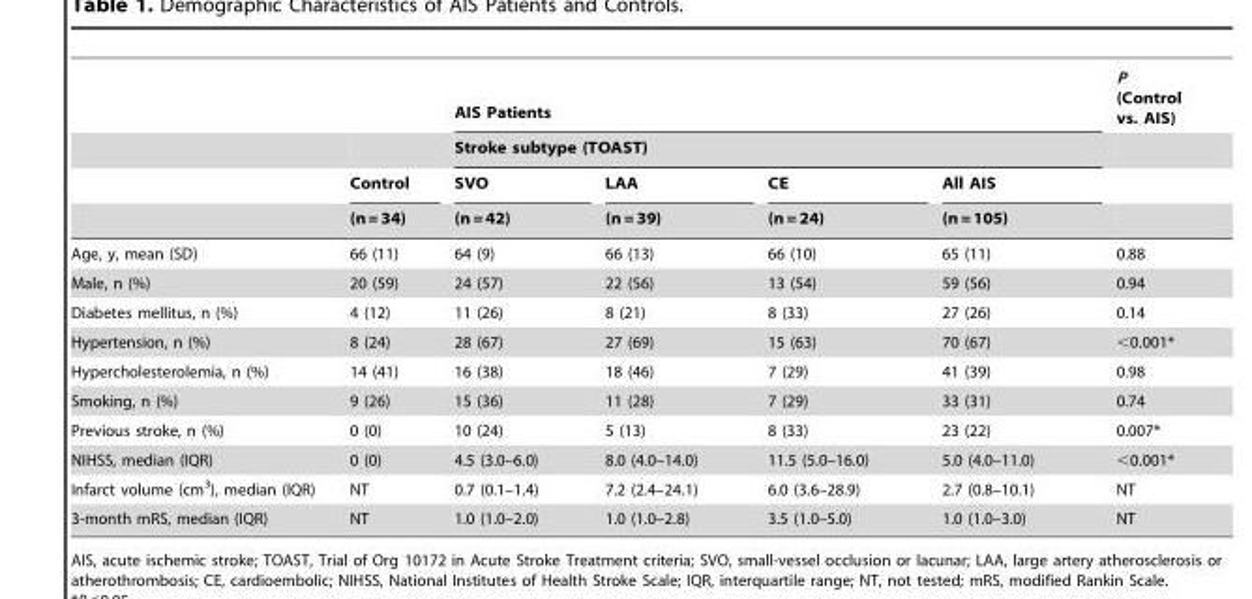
<table><thead><tr><td rowspan="4"></td><td rowspan="4">Control (n = 34)</td><td rowspan="2" colspan="4">AIS Patients Stroke subtype (TOAST)</td><td rowspan="4">P (Control vs. AIS)</td></tr><tr></tr><tr><td rowspan="2">SVO (n = 42)</td><td rowspan="2">LAA (n = 39)</td><td rowspan="2">CE (n = 24)</td><td rowspan="2">All AIS (n = 105)</td></tr><tr></tr></thead><tbody><tr><td>Age, y, mean (SD)</td><td>66 (11)</td><td>64 (9)</td><td>66 (13)</td><td>66 (10)</td><td>65 (11)</td><td>0.88</td></tr><tr><td>Male, n (%)</td><td>20 (59)</td><td>24 (57)</td><td>22 (56)</td><td>13 (54)</td><td>59 (56)</td><td>0.94</td></tr><tr><td>Diabetes mellitus, n (%)</td><td>4 (12)</td><td>11 (26)</td><td>8 (21)</td><td>8 (33)</td><td>27 (26)</td><td>0.14</td></tr><tr><td>Hypertension, n (%)</td><td>8 (24)</td><td>28 (67)</td><td>27 (69)</td><td>15 (63)</td><td>70 (67)</td><td>&lt;0.001*</td></tr><tr><td>Hypercholesterolemia, n (%)</td><td>14 (41)</td><td>16 (38)</td><td>18 (46)</td><td>7 (29)</td><td>41 (39)</td><td>0.98</td></tr><tr><td>Smoking, n (%)</td><td>9 (26)</td><td>15 (36)</td><td>11 (28)</td><td>7 (29)</td><td>33 (31)</td><td>0.74</td></tr><tr><td>Previous stroke, n (%)</td><td>0 (0)</td><td>10 (24)</td><td>5 (13)</td><td>8 (33)</td><td>23 (22)</td><td>0.007*</td></tr><tr><td>NIHSS, median (IQR)</td><td>0 (0)</td><td>4.5 (3.0–6.0)</td><td>8.0 (4.0–14.0)</td><td>11.5 (5.0–16.0)</td><td>5.0 (4.0–11.0)</td><td>&lt;0.001*</td></tr><tr><td>Infarct volume (cm<sup>3</sup>), median (IQR)</td><td>NT</td><td>0.7 (0.1–1.4)</td><td>7.2 (2.4–24.1)</td><td>6.0 (3.6–28.9)</td><td>2.7 (0.8–10.1)</td><td>NT</td></tr><tr><td>3-month mRS, median (IQR)</td><td>NT</td><td>1.0 (1.0–2.0)</td><td>1.0 (1.0–2.8)</td><td>3.5 (1.0–5.0)</td><td>1.0 (1.0–3.0)</td><td>NT</td></tr></tbody></table>